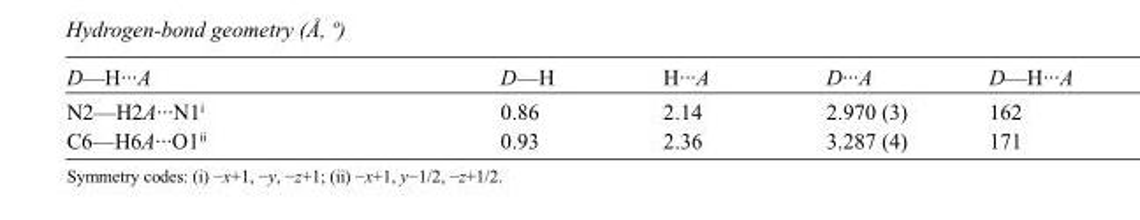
<table><tbody><tr><td>D—H···A</td><td>D—H</td><td>H···A</td><td>D···A</td><td>D—H···A</td></tr><tr><td>N2—H2A···N1<sup>i</sup></td><td>0.86</td><td>2.14</td><td>2.970 (3)</td><td>162</td></tr><tr><td>C6—H6A···O1<sup>ii</sup></td><td>0.93</td><td>2.36</td><td>3.287 (4)</td><td>171</td></tr></tbody></table>